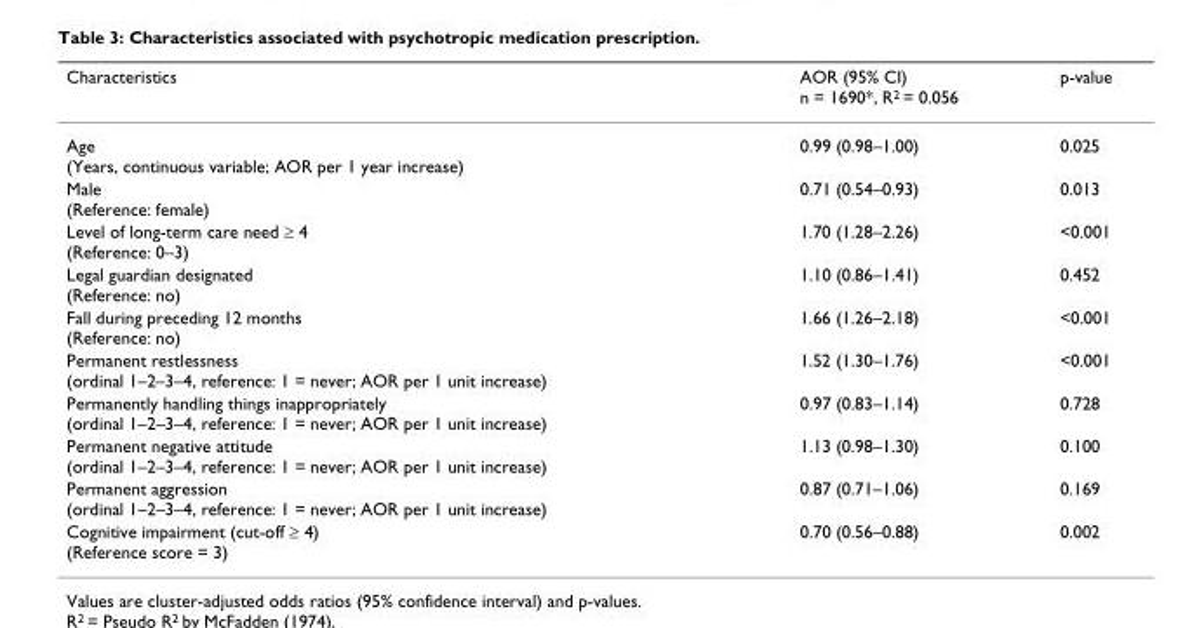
<table><thead><tr><td>Characteristics</td><td>AOR (95% CI) n = 1690*, R<sup>2</sup> = 0.056</td><td>p-value</td></tr></thead><tbody><tr><td>Age (Years, continuous variable; AOR per 1 year increase)</td><td>0.99 (0.98–1.00)</td><td>0.025</td></tr><tr><td>Male (Reference: female)</td><td>0.71 (0.54–0.93)</td><td>0.013</td></tr><tr><td>Level of long-term care need ≥ 4 (Reference: 0–3)</td><td>1.70 (1.28–2.26)</td><td>&lt;0.001</td></tr><tr><td>Legal guardian designated (Reference: no)</td><td>1.10 (0.86–1.41)</td><td>0.452</td></tr><tr><td>Fall during preceding 12 months (Reference: no)</td><td>1.66 (1.26–2.18)</td><td>&lt;0.001</td></tr><tr><td>Permanent restlessness (ordinal 1–2–3–4, reference: 1 = never; AOR per 1 unit increase)</td><td>1.52 (1.30–1.76)</td><td>&lt;0.001</td></tr><tr><td>Permanently handling things inappropriately (ordinal 1–2–3–4, reference: 1 = never; AOR per 1 unit increase)</td><td>0.97 (0.83–1.14)</td><td>0.728</td></tr><tr><td>Permanent negative attitude (ordinal 1–2–3–4, reference: 1 = never; AOR per 1 unit increase)</td><td>1.13 (0.98–1.30)</td><td>0.100</td></tr><tr><td>Permanent aggression (ordinal 1–2–3–4, reference: 1 = never; AOR per 1 unit increase)</td><td>0.87 (0.71–1.06)</td><td>0.169</td></tr><tr><td>Cognitive impairment (cut-off ≥ 4) (Reference score = 3)</td><td>0.70 (0.56–0.88)</td><td>0.002</td></tr></tbody></table>